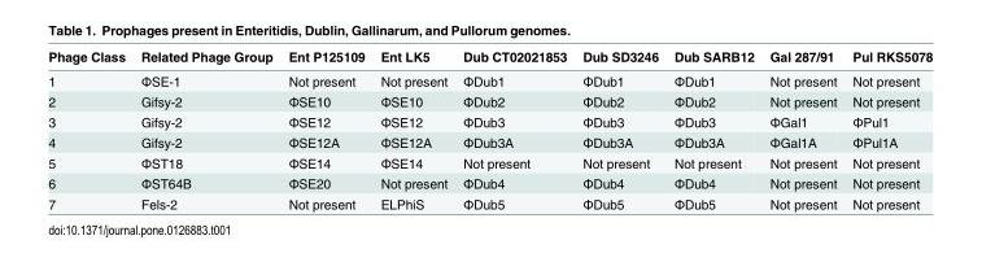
<table><thead><tr><td>Phage Class</td><td>Related Phage Group</td><td>Ent P125109</td><td>Ent LK5</td><td>Dub CT02021853</td><td>Dub SD3246</td><td>Dub SARB12</td><td>Gal 287/91</td><td>Pul RKS5078</td></tr></thead><tbody><tr><td>1</td><td>ΦSE-1</td><td>Not present</td><td>Not present</td><td>ΦDub1</td><td>ΦDub1</td><td>ΦDub1</td><td>Not present</td><td>Not present</td></tr><tr><td>2</td><td>Gifsy-2</td><td>ΦSE10</td><td>ΦSE10</td><td>ΦDub2</td><td>ΦDub2</td><td>ΦDub2</td><td>Not present</td><td>Not present</td></tr><tr><td>3</td><td>Gifsy-2</td><td>ΦSE12</td><td>ΦSE12</td><td>ΦDub3</td><td>ΦDub3</td><td>ΦDub3</td><td>ΦGal1</td><td>ΦPul1</td></tr><tr><td>4</td><td>Gifsy-2</td><td>ΦSE12A</td><td>ΦSE12A</td><td>ΦDub3A</td><td>ΦDub3A</td><td>ΦDub3A</td><td>ΦGal1A</td><td>ΦPul1A</td></tr><tr><td>5</td><td>ΦST18</td><td>ΦSE14</td><td>ΦSE14</td><td>Not present</td><td>Not present</td><td>Not present</td><td>Not present</td><td>Not present</td></tr><tr><td>6</td><td>ΦST64B</td><td>ΦSE20</td><td>Not present</td><td>ΦDub4</td><td>ΦDub4</td><td>ΦDub4</td><td>Not present</td><td>Not present</td></tr><tr><td>7</td><td>Fels-2</td><td>Not present</td><td>ELPhiS</td><td>ΦDub5</td><td>ΦDub5</td><td>ΦDub5</td><td>Not present</td><td>Not present</td></tr></tbody></table>